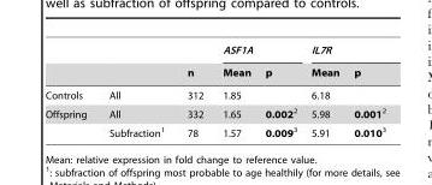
<table><thead><tr><td rowspan="2"></td><td rowspan="2"></td><td rowspan="2">n</td><td colspan="2">ASF1A</td><td colspan="2">IL7R</td></tr><tr><td>Mean</td><td>p</td><td>Mean</td><td>p</td></tr></thead><tbody><tr><td>Controls</td><td>All</td><td>312</td><td>1.85</td><td></td><td>6.18</td><td></td></tr><tr><td rowspan="2">Offspring</td><td>All</td><td>332</td><td>1.65</td><td>0.0022</td><td>5.98</td><td>0.0012</td></tr><tr><td>Subfraction<sup>1</sup></td><td>78</td><td>1.57</td><td>0.0093</td><td>5.91</td><td>0.0103</td></tr></tbody></table>